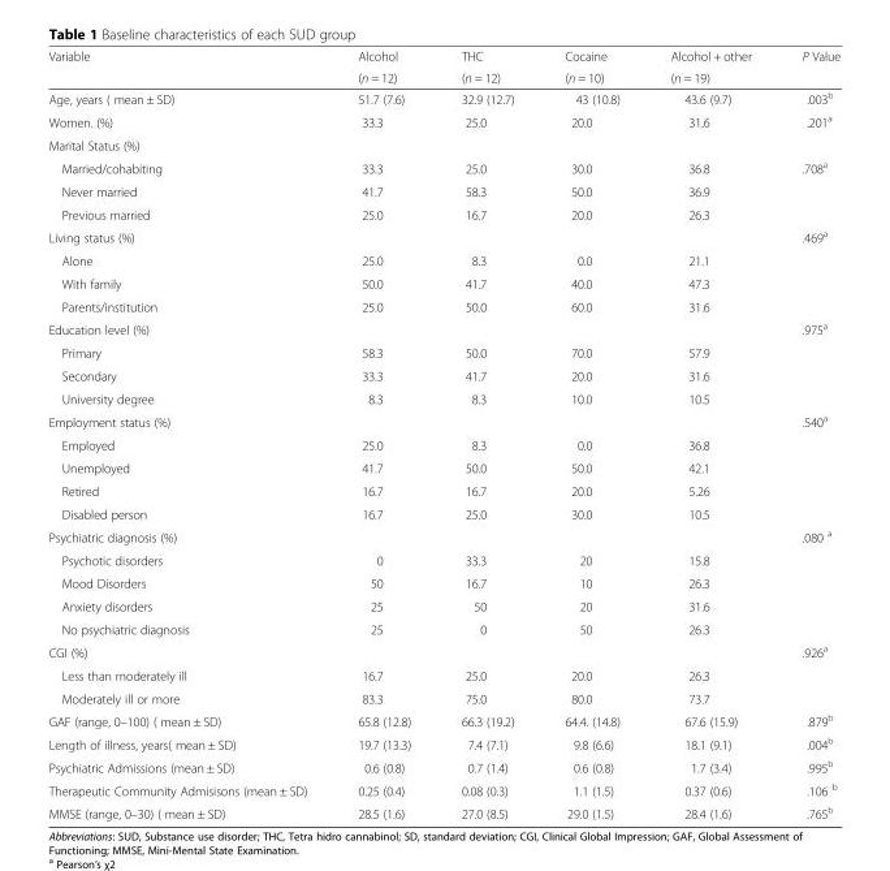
<table><thead><tr><td rowspan="2">Variable</td><td rowspan="2">Alcohol (n = 12)</td><td rowspan="2">THC (n = 12)</td><td rowspan="2">Cocaine (n = 10)</td><td rowspan="2">Alcohol + other (n = 19)</td><td rowspan="2">P Value</td></tr><tr></tr></thead><tbody><tr><td>Age, years ( mean ± SD)</td><td>51.7 (7.6)</td><td>32.9 (12.7)</td><td>43 (10.8)</td><td>43.6 (9.7)</td><td>.003<sup>b</sup></td></tr><tr><td>Women. (%)</td><td>33.3</td><td>25.0</td><td>20.0</td><td>31.6</td><td>.201<sup>a</sup></td></tr><tr><td colspan="6">Marital Status (%)</td></tr><tr><td>Married/cohabiting</td><td>33.3</td><td>25.0</td><td>30.0</td><td>36.8</td><td rowspan="3">.708<sup>a</sup></td></tr><tr><td>Never married</td><td>41.7</td><td>58.3</td><td>50.0</td><td>36.9</td></tr><tr><td>Previous married</td><td>25.0</td><td>16.7</td><td>20.0</td><td>26.3</td></tr><tr><td colspan="5">Living status (%)</td><td rowspan="4">.469<sup>a</sup></td></tr><tr><td>Alone</td><td>25.0</td><td>8.3</td><td>0.0</td><td>21.1</td></tr><tr><td>With family</td><td>50.0</td><td>41.7</td><td>40.0</td><td>47.3</td></tr><tr><td>Parents/institution</td><td>25.0</td><td>50.0</td><td>60.0</td><td>31.6</td></tr><tr><td colspan="5">Education level (%)</td><td rowspan="4">.975<sup>a</sup></td></tr><tr><td>Primary</td><td>58.3</td><td>50.0</td><td>70.0</td><td>57.9</td></tr><tr><td>Secondary</td><td>33.3</td><td>41.7</td><td>20.0</td><td>31.6</td></tr><tr><td>University degree</td><td>8.3</td><td>8.3</td><td>10.0</td><td>10.5</td></tr><tr><td colspan="5">Employment status (%)</td><td rowspan="5">.540<sup>a</sup></td></tr><tr><td>Employed</td><td>25.0</td><td>8.3</td><td>0.0</td><td>36.8</td></tr><tr><td>Unemployed</td><td>41.7</td><td>50.0</td><td>50.0</td><td>42.1</td></tr><tr><td>Retired</td><td>16.7</td><td>16.7</td><td>20.0</td><td>5.26</td></tr><tr><td>Disabled person</td><td>16.7</td><td>25.0</td><td>30.0</td><td>10.5</td></tr><tr><td colspan="5">Psychiatric diagnosis (%)</td><td rowspan="5">.080 <sup>a</sup></td></tr><tr><td>Psychotic disorders</td><td>0</td><td>33.3</td><td>20</td><td>15.8</td></tr><tr><td>Mood Disorders</td><td>50</td><td>16.7</td><td>10</td><td>26.3</td></tr><tr><td>Anxiety disorders</td><td>25</td><td>50</td><td>20</td><td>31.6</td></tr><tr><td>No psychiatric diagnosis</td><td>25</td><td>0</td><td>50</td><td>26.3</td></tr><tr><td colspan="5">CGI (%)</td><td rowspan="3">.926<sup>a</sup></td></tr><tr><td>Less than moderately ill</td><td>16.7</td><td>25.0</td><td>20.0</td><td>26.3</td></tr><tr><td>Moderately ill or more</td><td>83.3</td><td>75.0</td><td>80.0</td><td>73.7</td></tr><tr><td>GAF (range, 0–100) ( mean ± SD)</td><td>65.8 (12.8)</td><td>66.3 (19.2)</td><td>64.4. (14.8)</td><td>67.6 (15.9)</td><td>.879<sup>b</sup></td></tr><tr><td>Length of illness, years( mean ± SD)</td><td>19.7 (13.3)</td><td>7.4 (7.1)</td><td>9.8 (6.6)</td><td>18.1 (9.1)</td><td>.004<sup>b</sup></td></tr><tr><td>Psychiatric Admissions (mean ± SD)</td><td>0.6 (0.8)</td><td>0.7 (1.4)</td><td>0.6 (0.8)</td><td>1.7 (3.4)</td><td>.995<sup>b</sup></td></tr><tr><td>Therapeutic Community Admisisons (mean ± SD)</td><td>0.25 (0.4)</td><td>0.08 (0.3)</td><td>1.1 (1.5)</td><td>0.37 (0.6)</td><td>.106 <sup>b</sup></td></tr><tr><td>MMSE (range, 0–30) ( mean ± SD)</td><td>28.5 (1.6)</td><td>27.0 (8.5)</td><td>29.0 (1.5)</td><td>28.4 (1.6)</td><td>.765<sup>b</sup></td></tr></tbody></table>